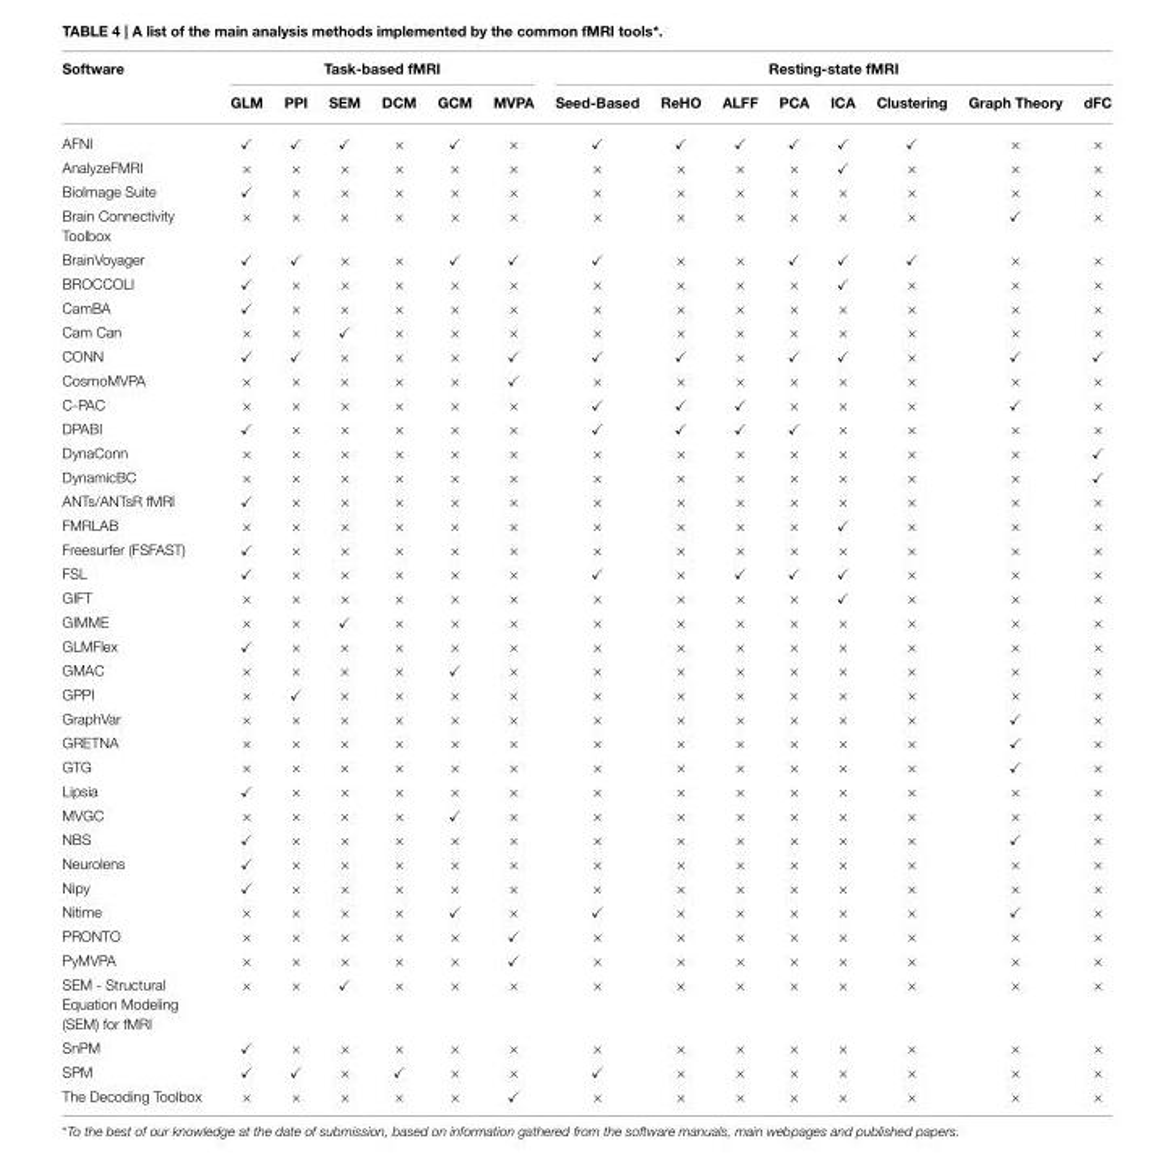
<table><thead><tr><td rowspan="2">Software</td><td colspan="6">Task-based fMRI</td><td colspan="8">Resting-state fMRI</td></tr><tr><td>GLM</td><td>PPI</td><td>SEM</td><td>DCM</td><td>GCM</td><td>MVPA</td><td>Seed-Based</td><td>ReHO</td><td>ALFF</td><td>PCA</td><td>ICA</td><td>Clustering</td><td>Graph Theory</td><td>dFC</td></tr></thead><tbody><tr><td>AFNI</td><td>✓</td><td>✓</td><td>✓</td><td>×</td><td>✓</td><td>×</td><td>✓</td><td>✓</td><td>✓</td><td>✓</td><td>✓</td><td>✓</td><td>×</td><td>×</td></tr><tr><td>AnalyzeFMRI</td><td>×</td><td>×</td><td>×</td><td>×</td><td>×</td><td>×</td><td>×</td><td>×</td><td>×</td><td>×</td><td>✓</td><td>×</td><td>×</td><td>×</td></tr><tr><td>BioImage Suite</td><td>✓</td><td>×</td><td>×</td><td>×</td><td>×</td><td>×</td><td>×</td><td>×</td><td>×</td><td>×</td><td>×</td><td>×</td><td>×</td><td>×</td></tr><tr><td>Brain Connectivity Toolbox</td><td>×</td><td>×</td><td>×</td><td>×</td><td>×</td><td>×</td><td>×</td><td>×</td><td>×</td><td>×</td><td>×</td><td>×</td><td>✓</td><td>×</td></tr><tr><td>BrainVoyager</td><td>✓</td><td>✓</td><td>×</td><td>×</td><td>✓</td><td>✓</td><td>✓</td><td>×</td><td>×</td><td>✓</td><td>✓</td><td>✓</td><td>×</td><td>×</td></tr><tr><td>BROCCOLI</td><td>✓</td><td>×</td><td>×</td><td>×</td><td>×</td><td>×</td><td>×</td><td>×</td><td>×</td><td>×</td><td>✓</td><td>×</td><td>×</td><td>×</td></tr><tr><td>CamBA</td><td>✓</td><td>×</td><td>×</td><td>×</td><td>×</td><td>×</td><td>×</td><td>×</td><td>×</td><td>×</td><td>×</td><td>×</td><td>×</td><td>×</td></tr><tr><td>Cam Can</td><td>×</td><td>×</td><td>✓</td><td>×</td><td>×</td><td>×</td><td>×</td><td>×</td><td>×</td><td>×</td><td>×</td><td>×</td><td>×</td><td>×</td></tr><tr><td>CONN</td><td>✓</td><td>✓</td><td>×</td><td>×</td><td>×</td><td>✓</td><td>✓</td><td>✓</td><td>×</td><td>✓</td><td>✓</td><td>×</td><td>✓</td><td>✓</td></tr><tr><td>CosmoMVPA</td><td>×</td><td>×</td><td>×</td><td>×</td><td>×</td><td>✓</td><td>×</td><td>×</td><td>×</td><td>×</td><td>×</td><td>×</td><td>×</td><td>×</td></tr><tr><td>C-PAC</td><td>×</td><td>×</td><td>×</td><td>×</td><td>×</td><td>×</td><td>✓</td><td>✓</td><td>✓</td><td>×</td><td>×</td><td>×</td><td>✓</td><td>×</td></tr><tr><td>DPABI</td><td>✓</td><td>×</td><td>×</td><td>×</td><td>×</td><td>×</td><td>✓</td><td>✓</td><td>✓</td><td>✓</td><td>×</td><td>×</td><td>×</td><td>×</td></tr><tr><td>DynaConn</td><td>×</td><td>×</td><td>×</td><td>×</td><td>×</td><td>×</td><td>×</td><td>×</td><td>×</td><td>×</td><td>×</td><td>×</td><td>×</td><td>✓</td></tr><tr><td>DynamicBC</td><td>×</td><td>×</td><td>×</td><td>×</td><td>×</td><td>×</td><td>×</td><td>×</td><td>×</td><td>×</td><td>×</td><td>×</td><td>×</td><td>✓</td></tr><tr><td>ANTs/ANTsR fMRI</td><td>✓</td><td>×</td><td>×</td><td>×</td><td>×</td><td>×</td><td>×</td><td>×</td><td>×</td><td>×</td><td>×</td><td>×</td><td>×</td><td>×</td></tr><tr><td>FMRLAB</td><td>×</td><td>×</td><td>×</td><td>×</td><td>×</td><td>×</td><td>×</td><td>×</td><td>×</td><td>×</td><td>✓</td><td>×</td><td>×</td><td>×</td></tr><tr><td>Freesurfer (FSFAST)</td><td>✓</td><td>×</td><td>×</td><td>×</td><td>×</td><td>×</td><td>×</td><td>×</td><td>×</td><td>×</td><td>×</td><td>×</td><td>×</td><td>×</td></tr><tr><td>FSL</td><td>✓</td><td>×</td><td>×</td><td>×</td><td>×</td><td>×</td><td>✓</td><td>×</td><td>✓</td><td>✓</td><td>✓</td><td>×</td><td>×</td><td>×</td></tr><tr><td>GIFT</td><td>×</td><td>×</td><td>×</td><td>×</td><td>×</td><td>×</td><td>×</td><td>×</td><td>×</td><td>×</td><td>✓</td><td>×</td><td>×</td><td>×</td></tr><tr><td>GIMME</td><td>×</td><td>×</td><td>✓</td><td>×</td><td>×</td><td>×</td><td>×</td><td>×</td><td>×</td><td>×</td><td>×</td><td>×</td><td>×</td><td>×</td></tr><tr><td>GLMFlex</td><td>✓</td><td>×</td><td>×</td><td>×</td><td>×</td><td>×</td><td>×</td><td>×</td><td>×</td><td>×</td><td>×</td><td>×</td><td>×</td><td>×</td></tr><tr><td>GMAC</td><td>×</td><td>×</td><td>×</td><td>×</td><td>✓</td><td>×</td><td>×</td><td>×</td><td>×</td><td>×</td><td>×</td><td>×</td><td>×</td><td>×</td></tr><tr><td>GPPI</td><td>×</td><td>✓</td><td>×</td><td>×</td><td>×</td><td>×</td><td>×</td><td>×</td><td>×</td><td>×</td><td>×</td><td>×</td><td>×</td><td>×</td></tr><tr><td>GraphVar</td><td>×</td><td>×</td><td>×</td><td>×</td><td>×</td><td>×</td><td>×</td><td>×</td><td>×</td><td>×</td><td>×</td><td>×</td><td>✓</td><td>×</td></tr><tr><td>GRETNA</td><td>×</td><td>×</td><td>×</td><td>×</td><td>×</td><td>×</td><td>×</td><td>×</td><td>×</td><td>×</td><td>×</td><td>×</td><td>✓</td><td>×</td></tr><tr><td>GTG</td><td>×</td><td>×</td><td>×</td><td>×</td><td>×</td><td>×</td><td>×</td><td>×</td><td>×</td><td>×</td><td>×</td><td>×</td><td>✓</td><td>×</td></tr><tr><td>Lipsia</td><td>✓</td><td>×</td><td>×</td><td>×</td><td>×</td><td>×</td><td>×</td><td>×</td><td>×</td><td>×</td><td>×</td><td>×</td><td>×</td><td>×</td></tr><tr><td>MVGC</td><td>×</td><td>×</td><td>×</td><td>×</td><td>✓</td><td>×</td><td>×</td><td>×</td><td>×</td><td>×</td><td>×</td><td>×</td><td>×</td><td>×</td></tr><tr><td>NBS</td><td>✓</td><td>×</td><td>×</td><td>×</td><td>×</td><td>×</td><td>×</td><td>×</td><td>×</td><td>×</td><td>×</td><td>×</td><td>✓</td><td>×</td></tr><tr><td>Neurolens</td><td>✓</td><td>×</td><td>×</td><td>×</td><td>×</td><td>×</td><td>×</td><td>×</td><td>×</td><td>×</td><td>×</td><td>×</td><td>×</td><td>×</td></tr><tr><td>Nipy</td><td>✓</td><td>×</td><td>×</td><td>×</td><td>×</td><td>×</td><td>×</td><td>×</td><td>×</td><td>×</td><td>×</td><td>×</td><td>×</td><td>×</td></tr><tr><td>Nitime</td><td>×</td><td>×</td><td>×</td><td>×</td><td>✓</td><td>×</td><td>✓</td><td>×</td><td>×</td><td>×</td><td>×</td><td>×</td><td>✓</td><td>×</td></tr><tr><td>PRONTO</td><td>×</td><td>×</td><td>×</td><td>×</td><td>×</td><td>✓</td><td>×</td><td>×</td><td>×</td><td>×</td><td>×</td><td>×</td><td>×</td><td>×</td></tr><tr><td>PyMVPA</td><td>×</td><td>×</td><td>×</td><td>×</td><td>×</td><td>✓</td><td>×</td><td>×</td><td>×</td><td>×</td><td>×</td><td>×</td><td>×</td><td>×</td></tr><tr><td>SEM - Structural Equation Modeling (SEM) for fMRI</td><td>×</td><td>×</td><td>✓</td><td>×</td><td>×</td><td>×</td><td>×</td><td>×</td><td>×</td><td>×</td><td>×</td><td>×</td><td>×</td><td>×</td></tr><tr><td>SnPM</td><td>✓</td><td>×</td><td>×</td><td>×</td><td>×</td><td>×</td><td>×</td><td>×</td><td>×</td><td>×</td><td>×</td><td>×</td><td>×</td><td>×</td></tr><tr><td>SPM</td><td>✓</td><td>✓</td><td>×</td><td>✓</td><td>×</td><td>×</td><td>✓</td><td>×</td><td>×</td><td>×</td><td>×</td><td>×</td><td>×</td><td>×</td></tr><tr><td>The Decoding Toolbox</td><td>×</td><td>×</td><td>×</td><td>×</td><td>×</td><td>✓</td><td>×</td><td>×</td><td>×</td><td>×</td><td>×</td><td>×</td><td>×</td><td>×</td></tr></tbody></table>